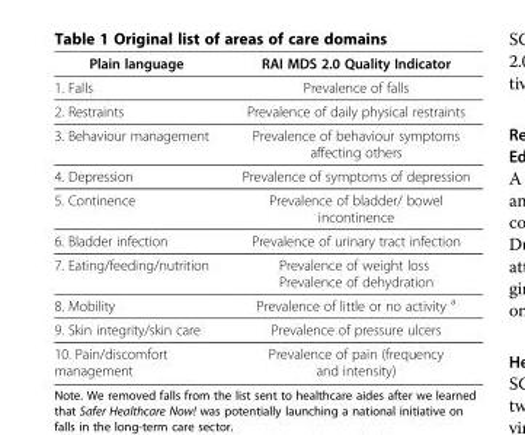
<table><thead><tr><td>Plain language</td><td>RAI MDS 2.0 Quality Indicator</td></tr></thead><tbody><tr><td>1. Falls</td><td>Prevalence of falls</td></tr><tr><td>2. Restraints</td><td>Prevalence of daily physical restraints</td></tr><tr><td>3. Behaviour management</td><td>Prevalence of behaviour symptoms affecting others</td></tr><tr><td>4. Depression</td><td>Prevalence of symptoms of depression</td></tr><tr><td>5. Continence</td><td>Prevalence of bladder/ bowel incontinence</td></tr><tr><td>6. Bladder infection</td><td>Prevalence of urinary tract infection</td></tr><tr><td>7. Eating/feeding/nutrition</td><td>Prevalence of weight loss Prevalence of dehydration</td></tr><tr><td>8. Mobility</td><td>Prevalence of little or no activity <sup>a</sup></td></tr><tr><td>9. Skin integrity/skin care</td><td>Prevalence of pressure ulcers</td></tr><tr><td>10. Pain/discomfort management</td><td>Prevalence of pain (frequency and intensity)</td></tr></tbody></table>